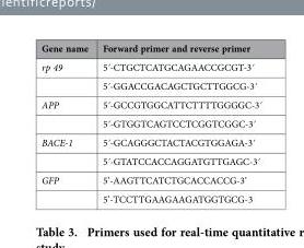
<table><thead><tr><td>Gene name</td><td>Forward primer and reverse primer</td></tr></thead><tbody><tr><td rowspan="2">rp 49</td><td>5ʹ -CTGCTCATGCAGAACCGCGT-3ʹ</td></tr><tr><td>5ʹ -GGACCGACAGCTGCTTGGCG-3ʹ</td></tr><tr><td rowspan="2">APP</td><td>5ʹ -GCCGTGGCATTCTTTTGGGGC-3ʹ</td></tr><tr><td>5ʹ -GTGGTCAGTCCTCGGTCGGC-3ʹ</td></tr><tr><td rowspan="2">BACE-1</td><td>5ʹ -GCAGGGCTACTACGTGGAGA-3ʹ</td></tr><tr><td>5ʹ -GTATCCACCAGGATGTTGAGC-3ʹ</td></tr><tr><td rowspan="2">GFP</td><td>5’-AAGTTCATCTGCACCACCG-3’</td></tr><tr><td>5’-TCCTTGAAGAAGATGGTGCG-3</td></tr></tbody></table>